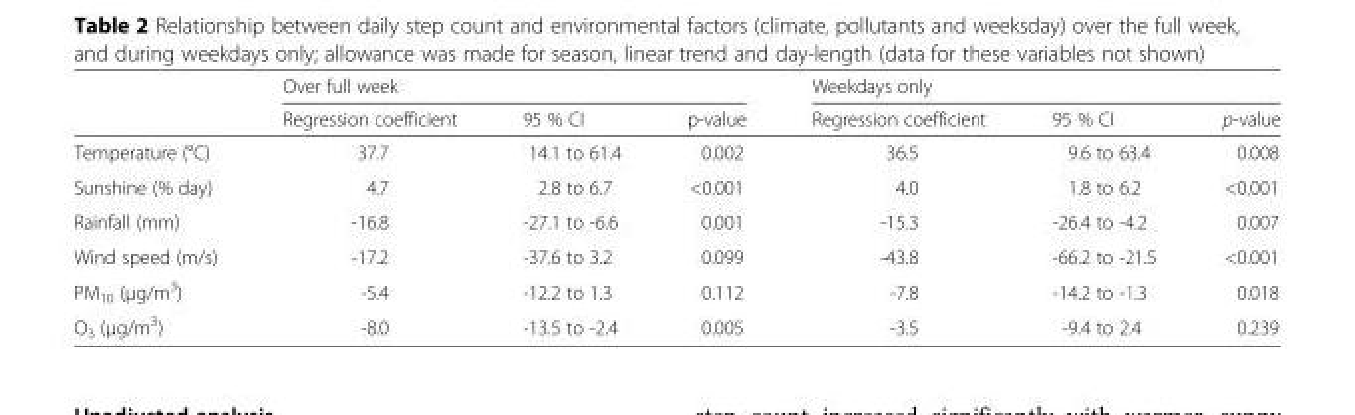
<table><thead><tr><td rowspan="2"></td><td colspan="3">Over full week</td><td colspan="3">Weekdays only</td></tr><tr><td>Regression coefficient</td><td>95 % CI</td><td>p-value</td><td>Regression coefficient</td><td>95 % CI</td><td>p-value</td></tr></thead><tbody><tr><td>Temperature (°C)</td><td>37.7</td><td>14.1 to 61.4</td><td>0.002</td><td>36.5</td><td>9.6 to 63.4</td><td>0.008</td></tr><tr><td>Sunshine (% day)</td><td>4.7</td><td>2.8 to 6.7</td><td>&lt;0.001</td><td>4.0</td><td>1.8 to 6.2</td><td>&lt;0.001</td></tr><tr><td>Rainfall (mm)</td><td>-16.8</td><td>-27.1 to -6.6</td><td>0.001</td><td>-15.3</td><td>-26.4 to -4.2</td><td>0.007</td></tr><tr><td>Wind speed (m/s)</td><td>-17.2</td><td>-37.6 to 3.2</td><td>0.099</td><td>-43.8</td><td>-66.2 to -21.5</td><td>&lt;0.001</td></tr><tr><td>PM<sub>10</sub> (μg/m<sup>3</sup>)</td><td>-5.4</td><td>-12.2 to 1.3</td><td>0.112</td><td>-7.8</td><td>-14.2 to -1.3</td><td>0.018</td></tr><tr><td>O<sub>3</sub> (μg/m<sup>3</sup>)</td><td>-8.0</td><td>-13.5 to -2.4</td><td>0.005</td><td>-3.5</td><td>-9.4 to 2.4</td><td>0.239</td></tr></tbody></table>